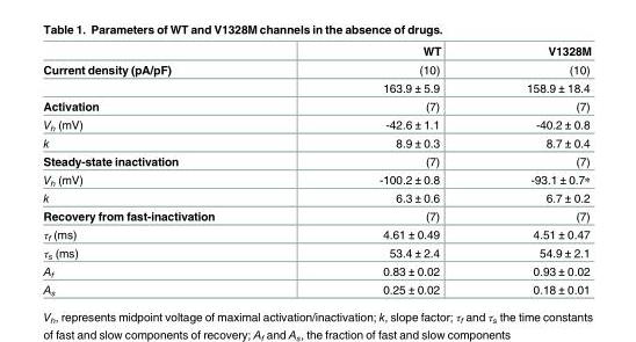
<table><thead><tr><td></td><td>WT</td><td>V1328M</td></tr></thead><tbody><tr><td rowspan="2">Current density (pA/pF)</td><td>(10)</td><td>(10)</td></tr><tr><td>163.9 ± 5.9</td><td>158.9 ± 18.4</td></tr><tr><td>Activation</td><td>(7)</td><td>(7)</td></tr><tr><td>V<sub>h</sub> (mV)</td><td>-42.6 ± 1.1</td><td>-40.2 ± 0.8</td></tr><tr><td>k</td><td>8.9 ± 0.3</td><td>8.7 ± 0.4</td></tr><tr><td>Steady-state inactivation</td><td>(7)</td><td>(7)</td></tr><tr><td>V<sub>h</sub> (mV)</td><td>-100.2 ± 0.8</td><td>-93.1 ± 0.7٭</td></tr><tr><td>k</td><td>6.3 ± 0.6</td><td>6.7 ± 0.2</td></tr><tr><td>Recovery from fast-inactivation</td><td>(7)</td><td>(7)</td></tr><tr><td>τ<sub>f</sub> (ms)</td><td>4.61 ± 0.49</td><td>4.51 ± 0.47</td></tr><tr><td>τ<sub>s</sub> (ms)</td><td>53.4 ± 2.4</td><td>54.9 ± 2.1</td></tr><tr><td>A<sub>f</sub></td><td>0.83 ± 0.02</td><td>0.93 ± 0.02</td></tr><tr><td>A<sub>s</sub></td><td>0.25 ± 0.02</td><td>0.18 ± 0.01</td></tr></tbody></table>